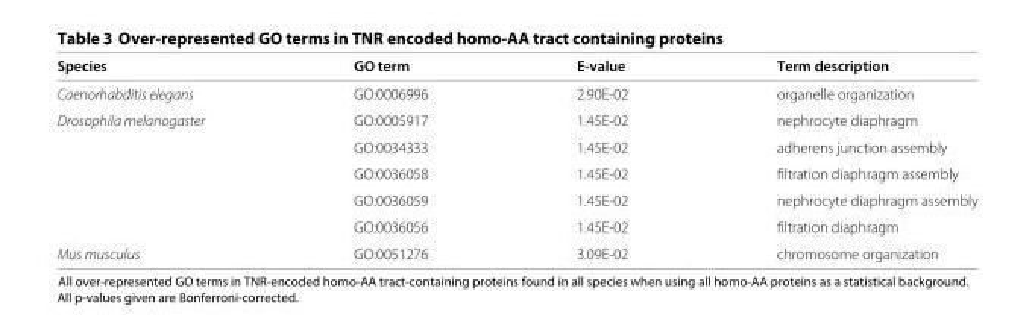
<table><thead><tr><td>Species</td><td>GO term</td><td>E-value</td><td>Term description</td></tr></thead><tbody><tr><td>Caenorhabditis elegans</td><td>GO:0006996</td><td>2.90E-02</td><td>organelle organization</td></tr><tr><td rowspan="5">Drosophila melanogaster</td><td>GO:0005917</td><td>1.45E-02</td><td>nephrocyte diaphragm</td></tr><tr><td>GO:0034333</td><td>1.45E-02</td><td>adherens junction assembly</td></tr><tr><td>GO:0036058</td><td>1.45E-02</td><td>filtration diaphragm assembly</td></tr><tr><td>GO:0036059</td><td>1.45E-02</td><td>nephrocyte diaphragm assembly</td></tr><tr><td>GO:0036056</td><td>1.45E-02</td><td>filtration diaphragm</td></tr><tr><td>Mus musculus</td><td>GO:0051276</td><td>3.09E-02</td><td>chromosome organization</td></tr></tbody></table>